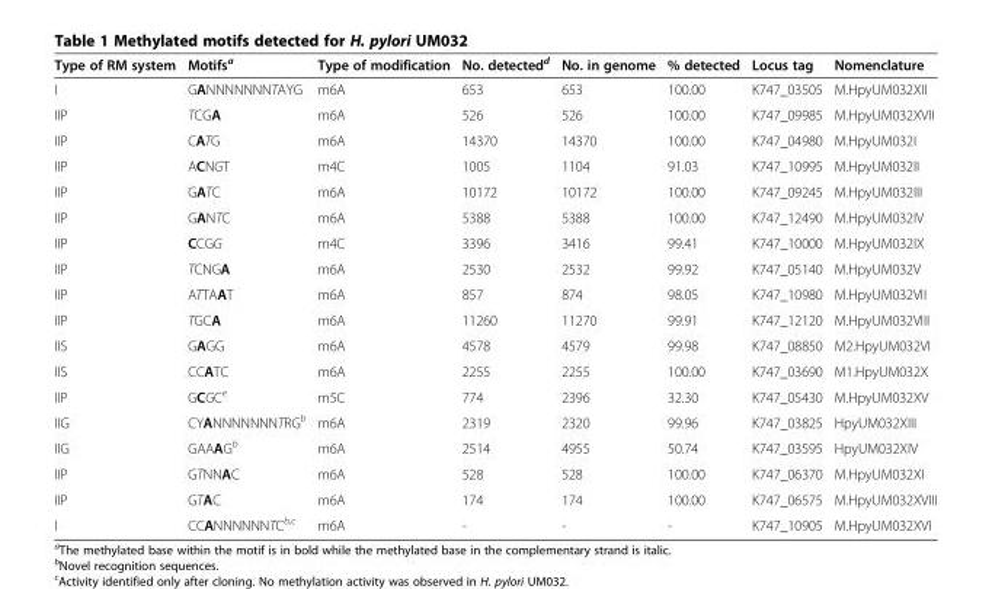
<table><thead><tr><td>Type of RM system</td><td>Motifs<sup>a</sup></td><td>Type of modification</td><td>No. detected<sup>d</sup></td><td>No. in genome</td><td>% detected</td><td>Locus tag</td><td>Nomenclature</td></tr></thead><tbody><tr><td>I</td><td>GANNNNNNNTAYG</td><td>m6A</td><td>653</td><td>653</td><td>100.00</td><td>K747_03505</td><td>M.HpyUM032XII</td></tr><tr><td>IIP</td><td>TCGA</td><td>m6A</td><td>526</td><td>526</td><td>100.00</td><td>K747_09985</td><td>M.HpyUM032XVII</td></tr><tr><td>IIP</td><td>CATG</td><td>m6A</td><td>14370</td><td>14370</td><td>100.00</td><td>K747_04980</td><td>M.HpyUM032I</td></tr><tr><td>IIP</td><td>ACNGT</td><td>m4C</td><td>1005</td><td>1104</td><td>91.03</td><td>K747_10995</td><td>M.HpyUM032II</td></tr><tr><td>IIP</td><td>GATC</td><td>m6A</td><td>10172</td><td>10172</td><td>100.00</td><td>K747_09245</td><td>M.HpyUM032III</td></tr><tr><td>IIP</td><td>GANTC</td><td>m6A</td><td>5388</td><td>5388</td><td>100.00</td><td>K747_12490</td><td>M.HpyUM032IV</td></tr><tr><td>IIP</td><td>CCGG</td><td>m4C</td><td>3396</td><td>3416</td><td>99.41</td><td>K747_10000</td><td>M.HpyUM032IX</td></tr><tr><td>IIP</td><td>TCNGA</td><td>m6A</td><td>2530</td><td>2532</td><td>99.92</td><td>K747_05140</td><td>M.HpyUM032V</td></tr><tr><td>IIP</td><td>ATTAAT</td><td>m6A</td><td>857</td><td>874</td><td>98.05</td><td>K747_10980</td><td>M.HpyUM032VII</td></tr><tr><td>IIP</td><td>TGCA</td><td>m6A</td><td>11260</td><td>11270</td><td>99.91</td><td>K747_12120</td><td>M.HpyUM032VIII</td></tr><tr><td>IIS</td><td>GAGG</td><td>m6A</td><td>4578</td><td>4579</td><td>99.98</td><td>K747_08850</td><td>M2.HpyUM032VI</td></tr><tr><td>IIS</td><td>CCATC</td><td>m6A</td><td>2255</td><td>2255</td><td>100.00</td><td>K747_03690</td><td>M1.HpyUM032X</td></tr><tr><td>IIP</td><td>GCGC<sup>e</sup></td><td>m5C</td><td>774</td><td>2396</td><td>32.30</td><td>K747_05430</td><td>M.HpyUM032XV</td></tr><tr><td>IIG</td><td>CYANNNNNNNTRG<sup>b</sup></td><td>m6A</td><td>2319</td><td>2320</td><td>99.96</td><td>K747_03825</td><td>HpyUM032XIII</td></tr><tr><td>IIG</td><td>GAAAG<sup>b</sup></td><td>m6A</td><td>2514</td><td>4955</td><td>50.74</td><td>K747_03595</td><td>HpyUM032XIV</td></tr><tr><td>IIP</td><td>GTNNAC</td><td>m6A</td><td>528</td><td>528</td><td>100.00</td><td>K747_06370</td><td>M.HpyUM032XI</td></tr><tr><td>IIP</td><td>GTAC</td><td>m6A</td><td>174</td><td>174</td><td>100.00</td><td>K747_06575</td><td>M.HpyUM032XVIII</td></tr><tr><td>I</td><td>CCANNNNNNTC<sup>b,c</sup></td><td>m6A</td><td>-</td><td>-</td><td>-</td><td>K747_10905</td><td>M.HpyUM032XVI</td></tr></tbody></table>